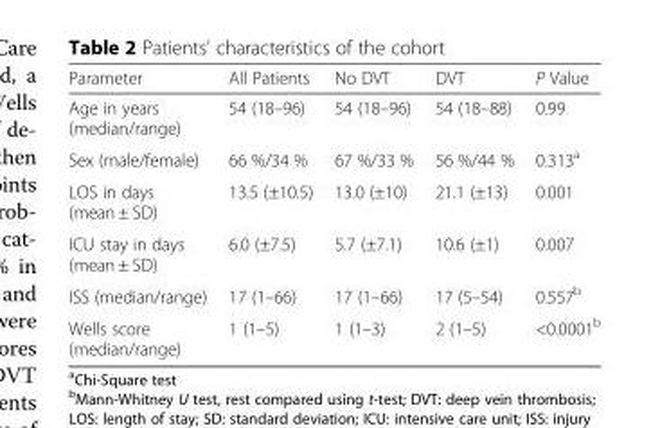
<table><thead><tr><td>Parameter</td><td>All Patients</td><td>No DVT</td><td>DVT</td><td>P Value</td></tr></thead><tbody><tr><td>Age in years (median/range)</td><td>54 (18–96)</td><td>54 (18–96)</td><td>54 (18–88)</td><td>0.99</td></tr><tr><td>Sex (male/female)</td><td>66 %/34 %</td><td>67 %/33 %</td><td>56 %/44 %</td><td>0.313<sup>a</sup></td></tr><tr><td>LOS in days (mean ± SD)</td><td>13.5 (±10.5)</td><td>13.0 (±10)</td><td>21.1 (±13)</td><td>0.001</td></tr><tr><td>ICU stay in days (mean ± SD)</td><td>6.0 (±7.5)</td><td>5.7 (±7.1)</td><td>10.6 (±1)</td><td>0.007</td></tr><tr><td>ISS (median/range)</td><td>17 (1–66)</td><td>17 (1–66)</td><td>17 (5–54)</td><td>0.557<sup>b</sup></td></tr><tr><td>Wells score (median/range)</td><td>1 (1–5)</td><td>1 (1–3)</td><td>2 (1–5)</td><td>&lt;0.0001<sup>b</sup></td></tr></tbody></table>